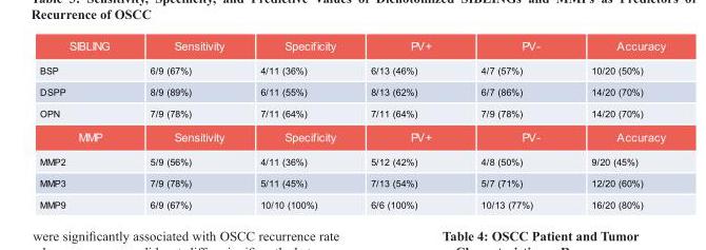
<table><thead><tr><td>SIBLING</td><td>Sensitivity</td><td>Specificity</td><td>PV+</td><td>PV-</td><td>Accuracy</td></tr></thead><tbody><tr><td>BSP</td><td>6/9 (67%)</td><td>4/11 (36%)</td><td>6/13 (46%)</td><td>4/7 (57%)</td><td>10/20 (50%)</td></tr><tr><td>DSPP</td><td>8/9 (89%)</td><td>6/11 (55%)</td><td>8/13 (62%)</td><td>6/7 (86%)</td><td>14/20 (70%)</td></tr><tr><td>OPN</td><td>7/9 (78%)</td><td>7/11 (64%)</td><td>7/11 (64%)</td><td>7/9 (78%)</td><td>14/20 (70%)</td></tr><tr><td>MMP</td><td>Sensitivity</td><td>Specificity</td><td>PV+</td><td>PV-</td><td>Accuracy</td></tr><tr><td>MMP2</td><td>5/9 (56%)</td><td>4/11 (36%)</td><td>5/12 (42%)</td><td>4/8 (50%)</td><td>9/20 (45%)</td></tr><tr><td>MMP3</td><td>7/9 (78%)</td><td>5/11 (45%)</td><td>7/13 (54%)</td><td>5/7 (71%)</td><td>12/20 (60%)</td></tr><tr><td>MMP9</td><td>6/9 (67%)</td><td>10/10 (100%)</td><td>6/6 (100%)</td><td>10/13 (77%)</td><td>16/20 (80%)</td></tr></tbody></table>